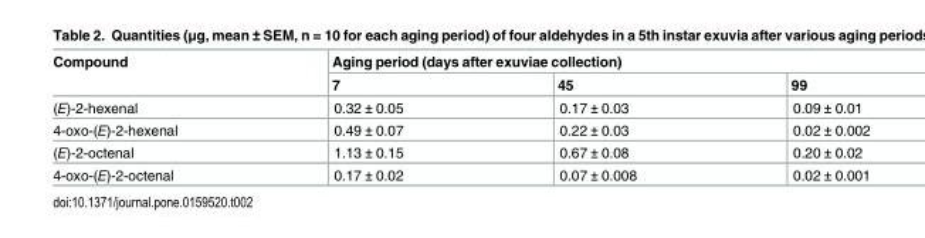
<table><thead><tr><td rowspan="2">Compound</td><td colspan="3">Aging period (days after exuviae collection)</td></tr><tr><td>7</td><td>45</td><td>99</td></tr></thead><tbody><tr><td>(E)-2-hexenal</td><td>0.32 ± 0.05</td><td>0.17 ± 0.03</td><td>0.09 ± 0.01</td></tr><tr><td>4-oxo-(E)-2-hexenal</td><td>0.49 ± 0.07</td><td>0.22 ± 0.03</td><td>0.02 ± 0.002</td></tr><tr><td>(E)-2-octenal</td><td>1.13 ± 0.15</td><td>0.67 ± 0.08</td><td>0.20 ± 0.02</td></tr><tr><td>4-oxo-(E)-2-octenal</td><td>0.17 ± 0.02</td><td>0.07 ± 0.008</td><td>0.02 ± 0.001</td></tr></tbody></table>